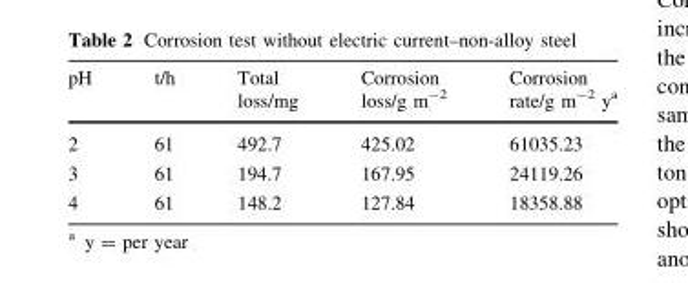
<table><thead><tr><td>pH</td><td>t/h</td><td>Total loss/mg</td><td>Corrosion loss/g m<sup>-2</sup></td><td>Corrosion rate/g m<sup>-2</sup> y<sup>a</sup></td></tr></thead><tbody><tr><td>2</td><td>61</td><td>492.7</td><td>425.02</td><td>61035.23</td></tr><tr><td>3</td><td>61</td><td>194.7</td><td>167.95</td><td>24119.26</td></tr><tr><td>4</td><td>61</td><td>148.2</td><td>127.84</td><td>18358.88</td></tr></tbody></table>